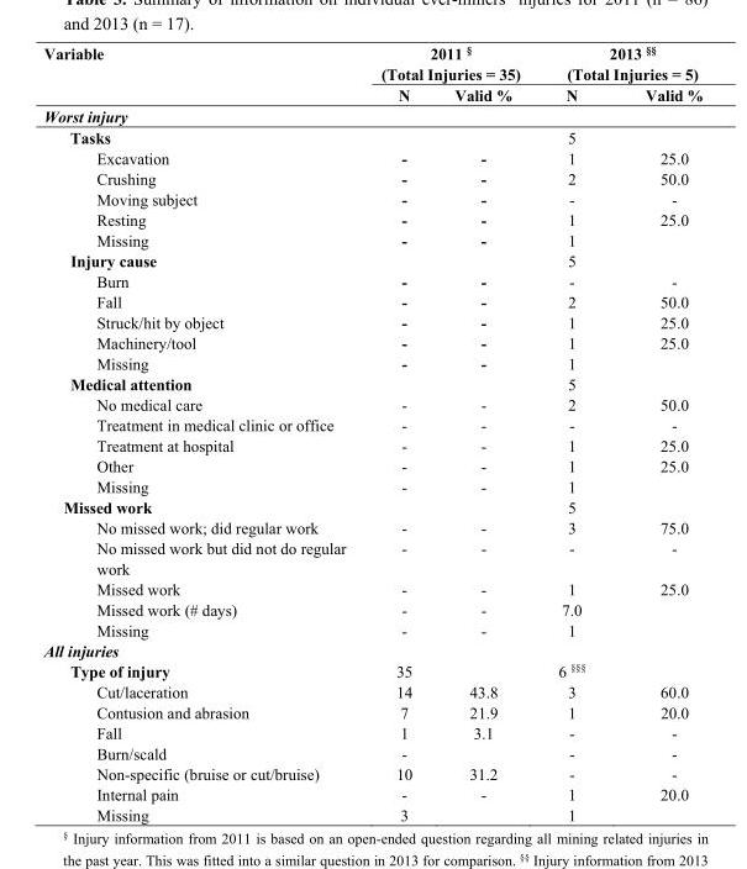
<table><thead><tr><td rowspan="2">Variable</td><td colspan="2">2011 <sup>§</sup> (Total Injuries = 35)</td><td colspan="2">2013 <sup>§§</sup> (Total Injuries = 5)</td></tr><tr><td>N</td><td>Valid %</td><td>N</td><td>Valid %</td></tr></thead><tbody><tr><td colspan="5">Worst injury</td></tr><tr><td>Tasks</td><td></td><td></td><td>5</td><td></td></tr><tr><td>Excavation</td><td>-</td><td>-</td><td>1</td><td>25.0</td></tr><tr><td>Crushing</td><td>-</td><td>-</td><td>2</td><td>50.0</td></tr><tr><td>Moving subject</td><td>-</td><td>-</td><td>-</td><td>-</td></tr><tr><td>Resting</td><td>-</td><td>-</td><td>1</td><td>25.0</td></tr><tr><td>Missing</td><td>-</td><td>-</td><td>1</td><td></td></tr><tr><td>Injury cause</td><td></td><td></td><td>5</td><td></td></tr><tr><td>Burn</td><td>-</td><td>-</td><td>-</td><td>-</td></tr><tr><td>Fall</td><td>-</td><td>-</td><td>2</td><td>50.0</td></tr><tr><td>Struck/hit by object</td><td>-</td><td>-</td><td>1</td><td>25.0</td></tr><tr><td>Machinery/tool</td><td>-</td><td>-</td><td>1</td><td>25.0</td></tr><tr><td>Missing</td><td>-</td><td>-</td><td>1</td><td></td></tr><tr><td>Medical attention</td><td></td><td></td><td>5</td><td></td></tr><tr><td>No medical care</td><td>-</td><td>-</td><td>2</td><td>50.0</td></tr><tr><td>Treatment in medical clinic or office</td><td>-</td><td>-</td><td>-</td><td>-</td></tr><tr><td>Treatment at hospital</td><td>-</td><td>-</td><td>1</td><td>25.0</td></tr><tr><td>Other</td><td>-</td><td>-</td><td>1</td><td>25.0</td></tr><tr><td>Missing</td><td>-</td><td>-</td><td>1</td><td></td></tr><tr><td>Missed work</td><td></td><td></td><td>5</td><td></td></tr><tr><td>No missed work; did regular work</td><td>-</td><td>-</td><td>3</td><td>75.0</td></tr><tr><td>No missed work but did not do regular work</td><td>-</td><td>-</td><td>-</td><td>-</td></tr><tr><td>Missed work</td><td>-</td><td>-</td><td>1</td><td>25.0</td></tr><tr><td>Missed work (# days)</td><td>-</td><td>-</td><td>7.0</td><td></td></tr><tr><td>Missing</td><td>-</td><td>-</td><td>1</td><td></td></tr><tr><td colspan="5">All injuries</td></tr><tr><td>Type of injury</td><td>35</td><td></td><td>6 <sup>§§§</sup></td><td></td></tr><tr><td>Cut/laceration</td><td>14</td><td>43.8</td><td>3</td><td>60.0</td></tr><tr><td>Contusion and abrasion</td><td>7</td><td>21.9</td><td>1</td><td>20.0</td></tr><tr><td>Fall</td><td>1</td><td>3.1</td><td>-</td><td>-</td></tr><tr><td>Burn/scald</td><td>-</td><td></td><td>-</td><td>-</td></tr><tr><td>Non-specific (bruise or cut/bruise)</td><td>10</td><td>31.2</td><td>-</td><td>-</td></tr><tr><td>Internal pain</td><td>-</td><td>-</td><td>1</td><td>20.0</td></tr><tr><td>Missing</td><td>3</td><td></td><td>1</td><td></td></tr></tbody></table>